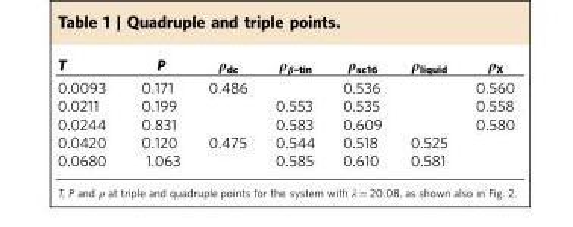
<table><thead><tr><td>T</td><td>P</td><td>ρ<sub>dc</sub></td><td>ρ<sub>β–tin</sub></td><td>ρ<sub>sc16</sub></td><td>ρ<sub>liquid</sub></td><td>ρ<sub>X</sub></td></tr></thead><tbody><tr><td>0.0093</td><td>0.171</td><td>0.486</td><td></td><td>0.536</td><td></td><td>0.560</td></tr><tr><td>0.0211</td><td>0.199</td><td></td><td>0.553</td><td>0.535</td><td></td><td>0.558</td></tr><tr><td>0.0244</td><td>0.831</td><td></td><td>0.583</td><td>0.609</td><td></td><td>0.580</td></tr><tr><td>0.0420</td><td>0.120</td><td>0.475</td><td>0.544</td><td>0.518</td><td>0.525</td><td></td></tr><tr><td>0.0680</td><td>1.063</td><td></td><td>0.585</td><td>0.610</td><td>0.581</td><td></td></tr></tbody></table>